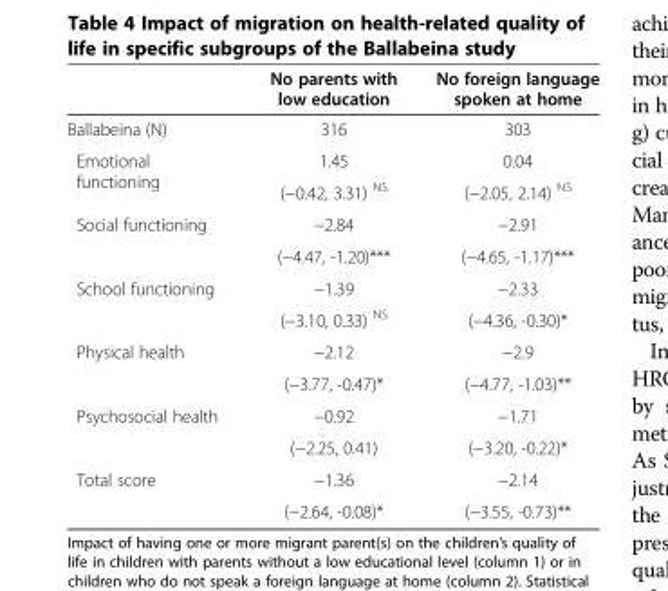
<table><thead><tr><td></td><td>No parents with low education</td><td>No foreign language spoken at home</td></tr></thead><tbody><tr><td>Ballabeina (N)</td><td>316</td><td>303</td></tr><tr><td rowspan="2">Emotional functioning</td><td>1.45</td><td>0.04</td></tr><tr><td>(−0.42, 3.31) <sup>NS</sup></td><td>(−2.05, 2.14) <sup>NS</sup></td></tr><tr><td rowspan="2">Social functioning</td><td>−2.84</td><td>−2.91</td></tr><tr><td>(−4.47, -1.20)***</td><td>(−4.65, -1.17)***</td></tr><tr><td rowspan="2">School functioning</td><td>−1.39</td><td>−2.33</td></tr><tr><td>(−3.10, 0.33) <sup>NS</sup></td><td>(−4.36, -0.30)*</td></tr><tr><td rowspan="2">Physical health</td><td>−2.12</td><td>−2.9</td></tr><tr><td>(−3.77, -0.47)*</td><td>(−4.77, -1.03)**</td></tr><tr><td rowspan="2">Psychosocial health</td><td>−0.92</td><td>−1.71</td></tr><tr><td>(−2.25, 0.41)</td><td>(−3.20, -0.22)*</td></tr><tr><td rowspan="2">Total score</td><td>−1.36</td><td>−2.14</td></tr><tr><td>(−2.64, -0.08)*</td><td>(−3.55, -0.73)**</td></tr></tbody></table>